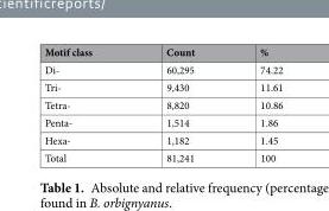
<table><thead><tr><td>Motif class</td><td>Count</td><td>%</td></tr></thead><tbody><tr><td>Di-</td><td>60,295</td><td>74.22</td></tr><tr><td>Tri-</td><td>9,430</td><td>11.61</td></tr><tr><td>Tetra-</td><td>8,820</td><td>10.86</td></tr><tr><td>Penta-</td><td>1,514</td><td>1.86</td></tr><tr><td>Hexa-</td><td>1,182</td><td>1.45</td></tr><tr><td>Total</td><td>81,241</td><td>100</td></tr></tbody></table>